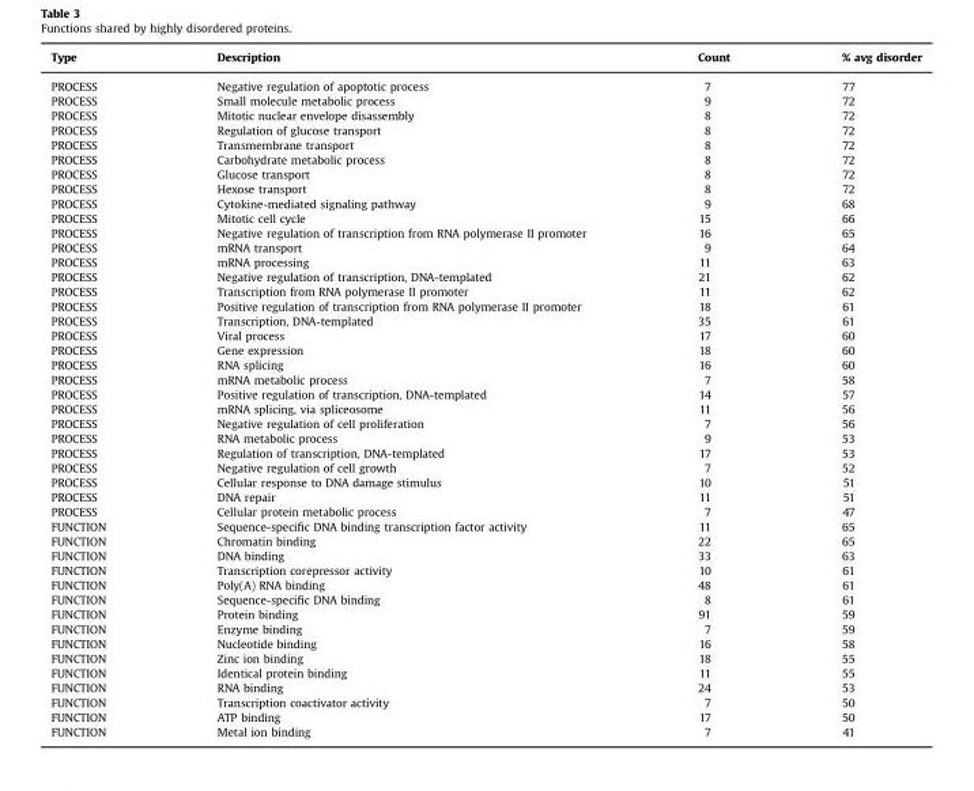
<table><thead><tr><td>Type</td><td>Description</td><td>Count</td><td>% avg disorder</td></tr></thead><tbody><tr><td>PROCESS</td><td>Negative regulation of apoptotic process</td><td>7</td><td>77</td></tr><tr><td>PROCESS</td><td>Small molecule metabolic process</td><td>9</td><td>72</td></tr><tr><td>PROCESS</td><td>Mitotic nuclear envelope disassembly</td><td>8</td><td>72</td></tr><tr><td>PROCESS</td><td>Regulation of glucose transport</td><td>8</td><td>72</td></tr><tr><td>PROCESS</td><td>Transmembrane transport</td><td>8</td><td>72</td></tr><tr><td>PROCESS</td><td>Carbohydrate metabolic process</td><td>8</td><td>72</td></tr><tr><td>PROCESS</td><td>Glucose transport</td><td>8</td><td>72</td></tr><tr><td>PROCESS</td><td>Hexose transport</td><td>8</td><td>72</td></tr><tr><td>PROCESS</td><td>Cytokine-mediated signaling pathway</td><td>9</td><td>68</td></tr><tr><td>PROCESS</td><td>Mitotic cell cycle</td><td>15</td><td>66</td></tr><tr><td>PROCESS</td><td>Negative regulation of transcription from RNA polymerase II promoter</td><td>16</td><td>65</td></tr><tr><td>PROCESS</td><td>mRNA transport</td><td>9</td><td>64</td></tr><tr><td>PROCESS</td><td>mRNA processing</td><td>11</td><td>63</td></tr><tr><td>PROCESS</td><td>Negative regulation of transcription, DNA-templated</td><td>21</td><td>62</td></tr><tr><td>PROCESS</td><td>Transcription from RNA polymerase II promoter</td><td>11</td><td>62</td></tr><tr><td>PROCESS</td><td>Positive regulation of transcription from RNA polymerase II promoter</td><td>18</td><td>61</td></tr><tr><td>PROCESS</td><td>Transcription, DNA-templated</td><td>35</td><td>61</td></tr><tr><td>PROCESS</td><td>Viral process</td><td>17</td><td>60</td></tr><tr><td>PROCESS</td><td>Gene expression</td><td>18</td><td>60</td></tr><tr><td>PROCESS</td><td>RNA splicing</td><td>16</td><td>60</td></tr><tr><td>PROCESS</td><td>mRNA metabolic process</td><td>7</td><td>58</td></tr><tr><td>PROCESS</td><td>Positive regulation of transcription, DNA-templated</td><td>14</td><td>57</td></tr><tr><td>PROCESS</td><td>mRNA splicing, via spliceosome</td><td>11</td><td>56</td></tr><tr><td>PROCESS</td><td>Negative regulation of cell proliferation</td><td>7</td><td>56</td></tr><tr><td>PROCESS</td><td>RNA metabolic process</td><td>9</td><td>53</td></tr><tr><td>PROCESS</td><td>Regulation of transcription, DNA-templated</td><td>17</td><td>53</td></tr><tr><td>PROCESS</td><td>Negative regulation of cell growth</td><td>7</td><td>52</td></tr><tr><td>PROCESS</td><td>Cellular response to DNA damage stimulus</td><td>10</td><td>51</td></tr><tr><td>PROCESS</td><td>DNA repair</td><td>11</td><td>51</td></tr><tr><td>PROCESS</td><td>Cellular protein metabolic process</td><td>7</td><td>47</td></tr><tr><td>FUNCTION</td><td>Sequence-specific DNA binding transcription factor activity</td><td>11</td><td>65</td></tr><tr><td>FUNCTION</td><td>Chromatin binding</td><td>22</td><td>65</td></tr><tr><td>FUNCTION</td><td>DNA binding</td><td>33</td><td>63</td></tr><tr><td>FUNCTION</td><td>Transcription corepressor activity</td><td>10</td><td>61</td></tr><tr><td>FUNCTION</td><td>Poly(A) RNA binding</td><td>48</td><td>61</td></tr><tr><td>FUNCTION</td><td>Sequence-specific DNA binding</td><td>8</td><td>61</td></tr><tr><td>FUNCTION</td><td>Protein binding</td><td>91</td><td>59</td></tr><tr><td>FUNCTION</td><td>Enzyme binding</td><td>7</td><td>59</td></tr><tr><td>FUNCTION</td><td>Nucleotide binding</td><td>16</td><td>58</td></tr><tr><td>FUNCTION</td><td>Zinc ion binding</td><td>18</td><td>55</td></tr><tr><td>FUNCTION</td><td>Identical protein binding</td><td>11</td><td>55</td></tr><tr><td>FUNCTION</td><td>RNA binding</td><td>24</td><td>53</td></tr><tr><td>FUNCTION</td><td>Transcription coactivator activity</td><td>7</td><td>50</td></tr><tr><td>FUNCTION</td><td>ATP binding</td><td>17</td><td>50</td></tr><tr><td>FUNCTION</td><td>Metal ion binding</td><td>7</td><td>41</td></tr></tbody></table>